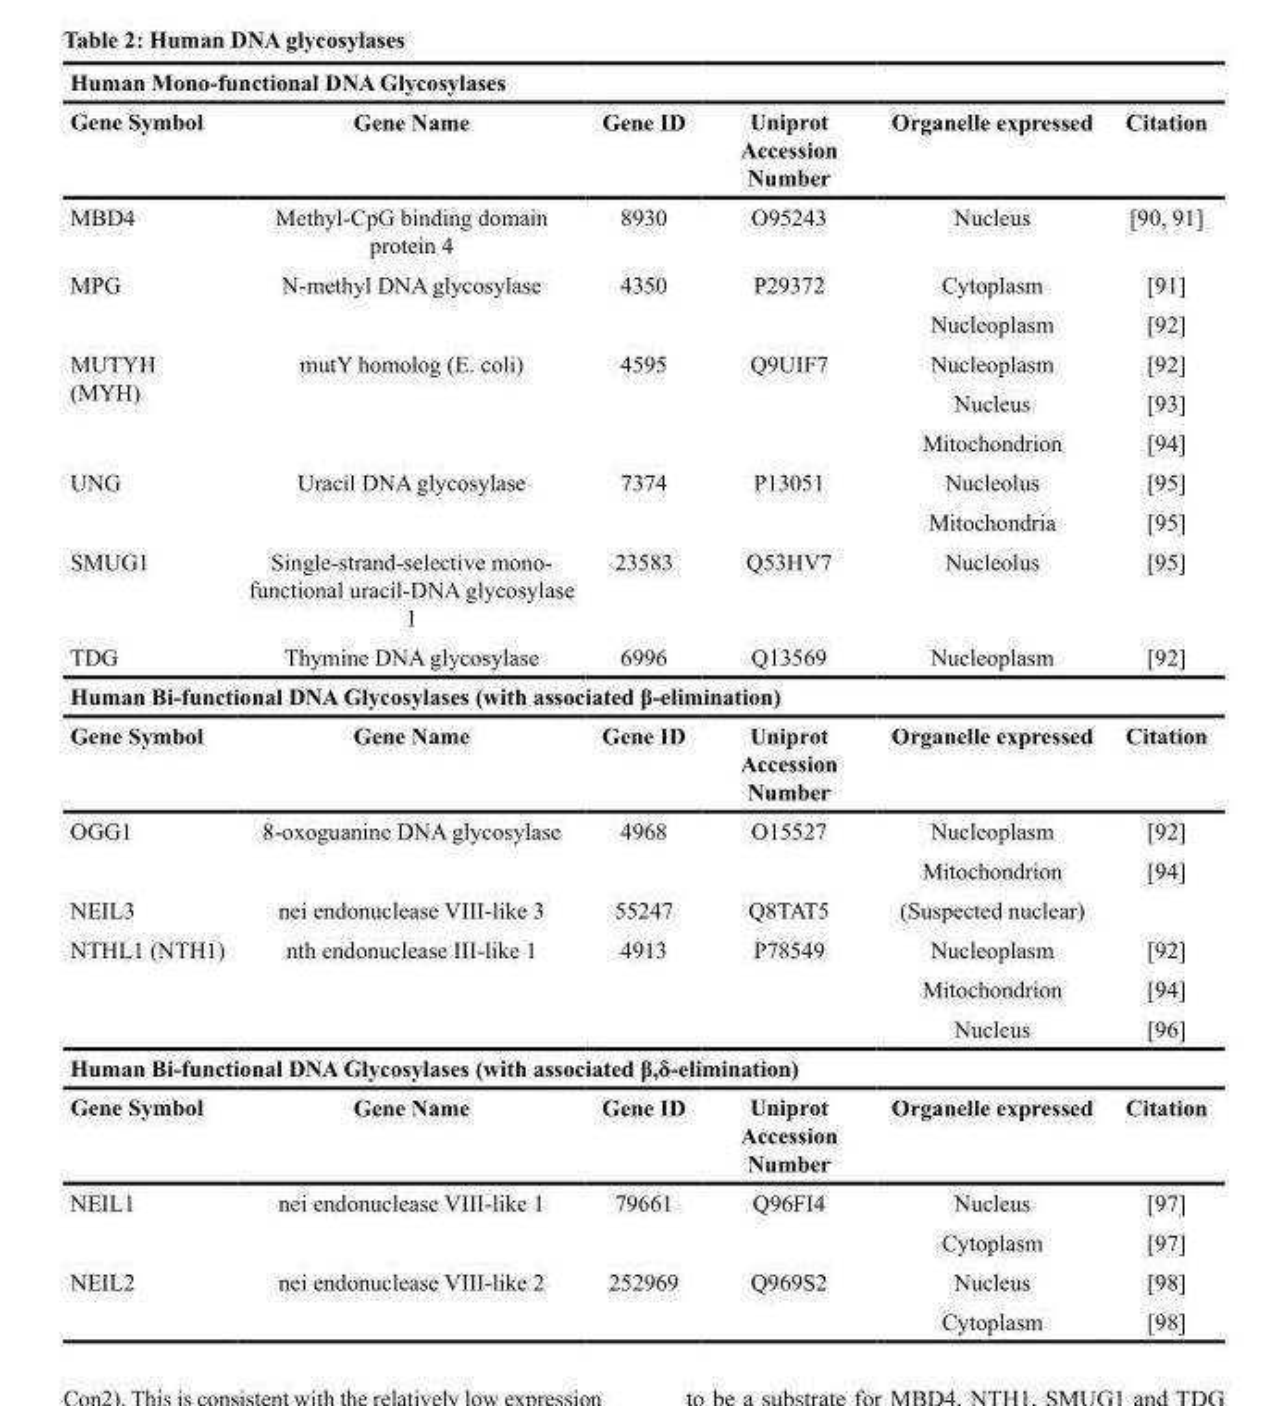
<table><tbody><tr><td colspan="6">Human Mono-functional DNA Glycosylases</td></tr><tr><td>Gene Symbol</td><td>Gene Name</td><td>Gene ID</td><td>Uniprot Accession Number</td><td>Organelle expressed</td><td>Citation</td></tr><tr><td>MBD4</td><td>Methyl-CpG binding domain protein 4</td><td>8930</td><td>O95243</td><td>Nucleus</td><td>[90, 91]</td></tr><tr><td rowspan="2">MPG</td><td rowspan="2">N-methyl DNA glycosylase</td><td rowspan="2">4350</td><td rowspan="2">P29372</td><td>Cytoplasm</td><td>[91]</td></tr><tr><td>Nucleoplasm</td><td>[92]</td></tr><tr><td rowspan="3">MUTYH (MYH)</td><td rowspan="3">mutY homolog (E. coli)</td><td rowspan="3">4595</td><td rowspan="3">Q9UIF7</td><td>Nucleoplasm</td><td>[92]</td></tr><tr><td>Nucleus</td><td>[93]</td></tr><tr><td>Mitochondrion</td><td>[94]</td></tr><tr><td rowspan="2">UNG</td><td rowspan="2">Uracil DNA glycosylase</td><td rowspan="2">7374</td><td rowspan="2">P13051</td><td>Nucleolus</td><td>[95]</td></tr><tr><td>Mitochondria</td><td>[95]</td></tr><tr><td>SMUG1</td><td>Single-strand-selective mono- functional uracil-DNA glycosylase 1</td><td>23583</td><td>Q53HV7</td><td>Nucleolus</td><td>[95]</td></tr><tr><td>TDG</td><td>Thymine DNA glycosylase</td><td>6996</td><td>Q13569</td><td>Nucleoplasm</td><td>[92]</td></tr><tr><td colspan="6">Human Bi-functional DNA Glycosylases (with associated β-elimination)</td></tr><tr><td>Gene Symbol</td><td>Gene Name</td><td>Gene ID</td><td>Uniprot Accession Number</td><td>Organelle expressed</td><td>Citation</td></tr><tr><td rowspan="2">OGG1</td><td rowspan="2">8-oxoguanine DNA glycosylase</td><td rowspan="2">4968</td><td rowspan="2">O15527</td><td>Nucleoplasm</td><td>[92]</td></tr><tr><td>Mitochondrion</td><td>[94]</td></tr><tr><td>NEIL3</td><td>nei endonuclease VIII-like 3</td><td>55247</td><td>Q8TAT5</td><td>(Suspected nuclear)</td><td></td></tr><tr><td rowspan="3">NTHL1 (NTH1)</td><td rowspan="3">nth endonuclease III-like 1</td><td rowspan="3">4913</td><td rowspan="3">P78549</td><td>Nucleoplasm</td><td>[92]</td></tr><tr><td>Mitochondrion</td><td>[94]</td></tr><tr><td>Nucleus</td><td>[96]</td></tr><tr><td colspan="6">Human Bi-functional DNA Glycosylases (with associated β,δ-elimination)</td></tr><tr><td>Gene Symbol</td><td>Gene Name</td><td>Gene ID</td><td>Uniprot Accession Number</td><td>Organelle expressed</td><td>Citation</td></tr><tr><td rowspan="2">NEIL1</td><td rowspan="2">nei endonuclease VIII-like 1</td><td rowspan="2">79661</td><td rowspan="2">Q96FI4</td><td>Nucleus</td><td>[97]</td></tr><tr><td>Cytoplasm</td><td>[97]</td></tr><tr><td rowspan="2">NEIL2</td><td rowspan="2">nei endonuclease VIII-like 2</td><td rowspan="2">252969</td><td rowspan="2">Q969S2</td><td>Nucleus</td><td>[98]</td></tr><tr><td>Cytoplasm</td><td>[98]</td></tr></tbody></table>